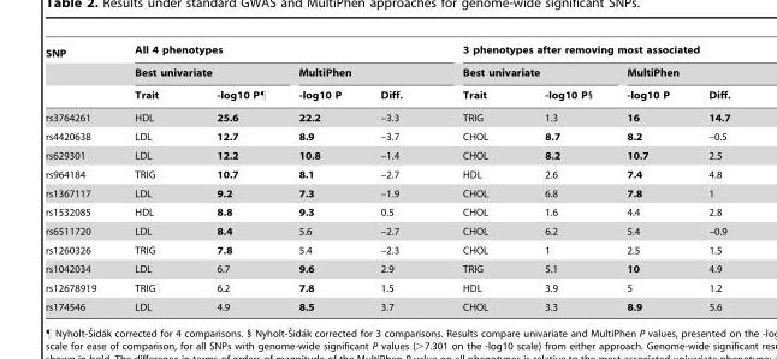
<table><thead><tr><td rowspan="3">SNP</td><td colspan="4">All 4 phenotypes</td><td colspan="4">3 phenotypes after removing most associated</td></tr><tr><td colspan="2">Best univariate</td><td colspan="2">MultiPhen</td><td colspan="2">Best univariate</td><td colspan="2">MultiPhen</td></tr><tr><td>Trait</td><td>-log10 P¶</td><td>-log10 P</td><td>Diff.</td><td>Trait</td><td>-log10 P§</td><td>-log10 P</td><td>Diff.</td></tr></thead><tbody><tr><td>rs3764261</td><td>HDL</td><td>25.6</td><td>22.2</td><td>–3.3</td><td>TRIG</td><td>1.3</td><td>16</td><td>14.7</td></tr><tr><td>rs4420638</td><td>LDL</td><td>12.7</td><td>8.9</td><td>–3.7</td><td>CHOL</td><td>8.7</td><td>8.2</td><td>–0.5</td></tr><tr><td>rs629301</td><td>LDL</td><td>12.2</td><td>10.8</td><td>–1.4</td><td>CHOL</td><td>8.2</td><td>10.7</td><td>2.5</td></tr><tr><td>rs964184</td><td>TRIG</td><td>10.7</td><td>8.1</td><td>–2.7</td><td>HDL</td><td>2.6</td><td>7.4</td><td>4.8</td></tr><tr><td>rs1367117</td><td>LDL</td><td>9.2</td><td>7.3</td><td>–1.9</td><td>CHOL</td><td>6.8</td><td>7.8</td><td>1</td></tr><tr><td>rs1532085</td><td>HDL</td><td>8.8</td><td>9.3</td><td>0.5</td><td>CHOL</td><td>1.6</td><td>4.4</td><td>2.8</td></tr><tr><td>rs6511720</td><td>LDL</td><td>8.4</td><td>5.6</td><td>–2.7</td><td>CHOL</td><td>6.2</td><td>5.4</td><td>–0.9</td></tr><tr><td>rs1260326</td><td>TRIG</td><td>7.8</td><td>5.4</td><td>–2.3</td><td>CHOL</td><td>1</td><td>2.5</td><td>1.5</td></tr><tr><td>rs1042034</td><td>LDL</td><td>6.7</td><td>9.6</td><td>2.9</td><td>TRIG</td><td>5.1</td><td>10</td><td>4.9</td></tr><tr><td>rs12678919</td><td>TRIG</td><td>6.2</td><td>7.8</td><td>1.5</td><td>HDL</td><td>3.9</td><td>5</td><td>1.2</td></tr><tr><td>rs174546</td><td>LDL</td><td>4.9</td><td>8.5</td><td>3.7</td><td>CHOL</td><td>3.3</td><td>8.9</td><td>5.6</td></tr></tbody></table>